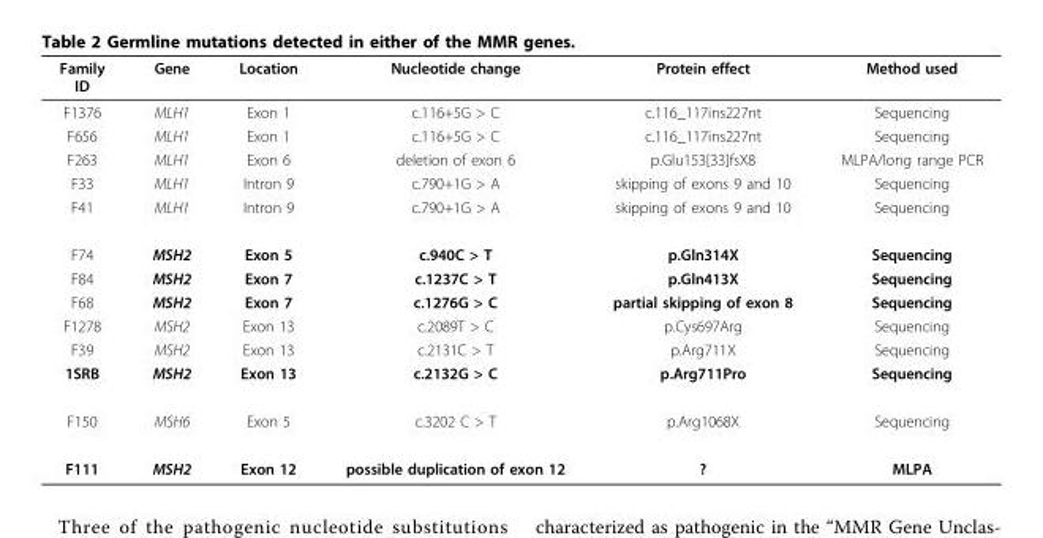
<table><thead><tr><td>Family ID</td><td>Gene</td><td>Location</td><td>Nucleotide change</td><td>Protein effect</td><td>Method used</td></tr></thead><tbody><tr><td>F1376</td><td>MLH1</td><td>Exon 1</td><td>c.116+5G &gt; C</td><td>c.116_117ins227nt</td><td>Sequencing</td></tr><tr><td>F656</td><td>MLH1</td><td>Exon 1</td><td>c.116+5G &gt; C</td><td>c.116_117ins227nt</td><td>Sequencing</td></tr><tr><td>F263</td><td>MLH1</td><td>Exon 6</td><td>deletion of exon 6</td><td>p.Glu153[33]fsX8</td><td>MLPA/long range PCR</td></tr><tr><td>F33</td><td>MLH1</td><td>Intron 9</td><td>c.790+1G &gt; A</td><td>skipping of exons 9 and 10</td><td>Sequencing</td></tr><tr><td>F41</td><td>MLH1</td><td>Intron 9</td><td>c.790+1G &gt; A</td><td>skipping of exons 9 and 10</td><td>Sequencing</td></tr><tr><td>F74</td><td>MSH2</td><td>Exon 5</td><td>c.940C &gt; T</td><td>p.Gln314X</td><td>Sequencing</td></tr><tr><td>F84</td><td>MSH2</td><td>Exon 7</td><td>c.1237C &gt; T</td><td>p.Gln413X</td><td>Sequencing</td></tr><tr><td>F68</td><td>MSH2</td><td>Exon 7</td><td>c.1276G &gt; C</td><td>partial skipping of exon 8</td><td>Sequencing</td></tr><tr><td>F1278</td><td>MSH2</td><td>Exon 13</td><td>c.2089T &gt; C</td><td>p.Cys697Arg</td><td>Sequencing</td></tr><tr><td>F39</td><td>MSH2</td><td>Exon 13</td><td>c.2131C &gt; T</td><td>p.Arg711X</td><td>Sequencing</td></tr><tr><td>1SRB</td><td>MSH2</td><td>Exon 13</td><td>c.2132G &gt; C</td><td>p.Arg711Pro</td><td>Sequencing</td></tr><tr><td>F150</td><td>MSH6</td><td>Exon 5</td><td>c.3202 C &gt; T</td><td>p.Arg1068X</td><td>Sequencing</td></tr><tr><td>F111</td><td>MSH2</td><td>Exon 12</td><td>possible duplication of exon 12</td><td>?</td><td>MLPA</td></tr></tbody></table>